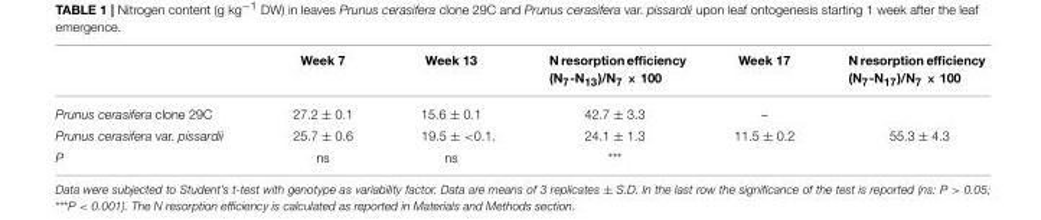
<table><thead><tr><td></td><td>Week 7</td><td>Week 13</td><td>N resorption efficiency (N<sub>7</sub>-N<sub>13</sub>)/N<sub>7</sub> × 100</td><td>Week 17</td><td>N resorption efficiency (N<sub>7</sub>-N<sub>17</sub>)/N<sub>7</sub> × 100</td></tr></thead><tbody><tr><td>Prunus cerasifera clone 29C</td><td>27.2 ± 0.1</td><td>15.6 ± 0.1</td><td>42.7 ± 3.3</td><td>–</td><td></td></tr><tr><td>Prunus cerasifera var. pissardii</td><td>25.7 ± 0.6</td><td>19.5 ± &lt;0.1.</td><td>24.1 ± 1.3</td><td>11.5 ± 0.2</td><td>55.3 ± 4.3</td></tr><tr><td>P</td><td>ns</td><td>ns</td><td>***</td><td></td><td></td></tr></tbody></table>